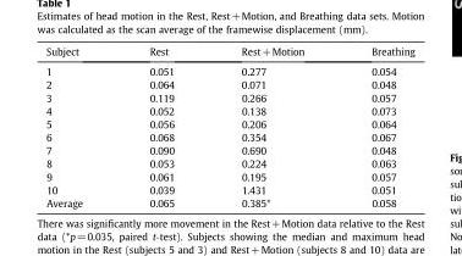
<table><thead><tr><td>Subject</td><td>Rest</td><td>Rest+Motion</td><td>Breathing</td></tr></thead><tbody><tr><td>1</td><td>0.051</td><td>0.277</td><td>0.054</td></tr><tr><td>2</td><td>0.064</td><td>0.071</td><td>0.048</td></tr><tr><td>3</td><td>0.119</td><td>0.266</td><td>0.057</td></tr><tr><td>4</td><td>0.052</td><td>0.138</td><td>0.073</td></tr><tr><td>5</td><td>0.056</td><td>0.206</td><td>0.064</td></tr><tr><td>6</td><td>0.068</td><td>0.354</td><td>0.067</td></tr><tr><td>7</td><td>0.090</td><td>0.690</td><td>0.048</td></tr><tr><td>8</td><td>0.053</td><td>0.224</td><td>0.063</td></tr><tr><td>9</td><td>0.061</td><td>0.195</td><td>0.057</td></tr><tr><td>10</td><td>0.039</td><td>1.431</td><td>0.051</td></tr><tr><td>Average</td><td>0.065</td><td>0.385*</td><td>0.058</td></tr></tbody></table>